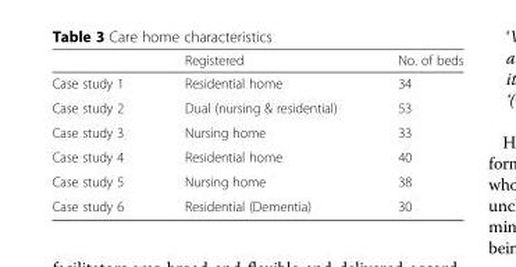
<table><thead><tr><td></td><td>Registered</td><td>No. of beds</td></tr></thead><tbody><tr><td>Case study 1</td><td>Residential home</td><td>34</td></tr><tr><td>Case study 2</td><td>Dual (nursing &amp; residential)</td><td>53</td></tr><tr><td>Case study 3</td><td>Nursing home</td><td>33</td></tr><tr><td>Case study 4</td><td>Residential home</td><td>40</td></tr><tr><td>Case study 5</td><td>Nursing home</td><td>38</td></tr><tr><td>Case study 6</td><td>Residential (Dementia)</td><td>30</td></tr></tbody></table>